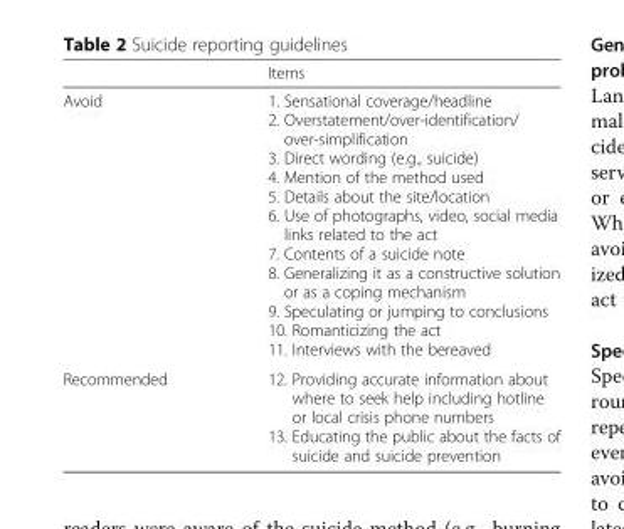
<table><thead><tr><td></td><td>Items</td></tr></thead><tbody><tr><td>Avoid</td><td>1. Sensational coverage/headline 2. Overstatement/over-identification/ over-simplification 3. Direct wording (e.g., suicide) 4. Mention of the method used 5. Details about the site/location 6. Use of photographs, video, social media links related to the act 7. Contents of a suicide note 8. Generalizing it as a constructive solution or as a coping mechanism 9. Speculating or jumping to conclusions 10. Romanticizing the act 11. Interviews with the bereaved</td></tr><tr><td>Recommended</td><td>12. Providing accurate information about where to seek help including hotline or local crisis phone numbers 13. Educating the public about the facts of suicide and suicide prevention</td></tr></tbody></table>